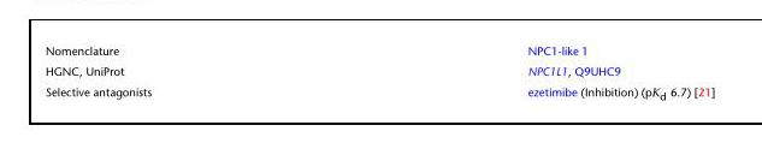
<table><tbody><tr><td>Nomenclature</td><td>NPC1-like 1</td></tr><tr><td>HGNC, UniProt</td><td>NPC1L1, Q9UHC9</td></tr><tr><td>Selective antagonists</td><td>ezetimibe (Inhibition) (pK<sub>d</sub> 6.7) [21]</td></tr></tbody></table>